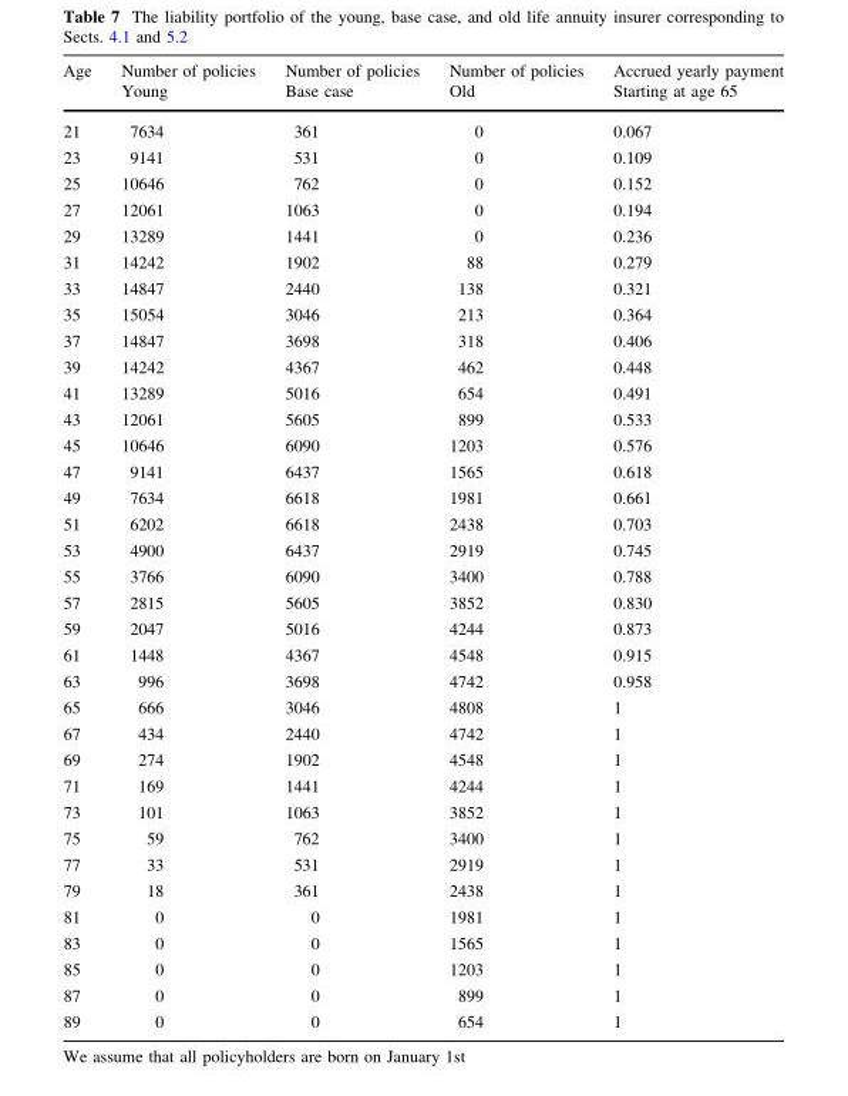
<table><thead><tr><td>Age</td><td>Number of policies Young</td><td>Number of policies Base case</td><td>Number of policies Old</td><td>Accrued yearly payment Starting at age 65</td></tr></thead><tbody><tr><td>21</td><td>7634</td><td>361</td><td>0</td><td>0.067</td></tr><tr><td>23</td><td>9141</td><td>531</td><td>0</td><td>0.109</td></tr><tr><td>25</td><td>10646</td><td>762</td><td>0</td><td>0.152</td></tr><tr><td>27</td><td>12061</td><td>1063</td><td>0</td><td>0.194</td></tr><tr><td>29</td><td>13289</td><td>1441</td><td>0</td><td>0.236</td></tr><tr><td>31</td><td>14242</td><td>1902</td><td>88</td><td>0.279</td></tr><tr><td>33</td><td>14847</td><td>2440</td><td>138</td><td>0.321</td></tr><tr><td>35</td><td>15054</td><td>3046</td><td>213</td><td>0.364</td></tr><tr><td>37</td><td>14847</td><td>3698</td><td>318</td><td>0.406</td></tr><tr><td>39</td><td>14242</td><td>4367</td><td>462</td><td>0.448</td></tr><tr><td>41</td><td>13289</td><td>5016</td><td>654</td><td>0.491</td></tr><tr><td>43</td><td>12061</td><td>5605</td><td>899</td><td>0.533</td></tr><tr><td>45</td><td>10646</td><td>6090</td><td>1203</td><td>0.576</td></tr><tr><td>47</td><td>9141</td><td>6437</td><td>1565</td><td>0.618</td></tr><tr><td>49</td><td>7634</td><td>6618</td><td>1981</td><td>0.661</td></tr><tr><td>51</td><td>6202</td><td>6618</td><td>2438</td><td>0.703</td></tr><tr><td>53</td><td>4900</td><td>6437</td><td>2919</td><td>0.745</td></tr><tr><td>55</td><td>3766</td><td>6090</td><td>3400</td><td>0.788</td></tr><tr><td>57</td><td>2815</td><td>5605</td><td>3852</td><td>0.830</td></tr><tr><td>59</td><td>2047</td><td>5016</td><td>4244</td><td>0.873</td></tr><tr><td>61</td><td>1448</td><td>4367</td><td>4548</td><td>0.915</td></tr><tr><td>63</td><td>996</td><td>3698</td><td>4742</td><td>0.958</td></tr><tr><td>65</td><td>666</td><td>3046</td><td>4808</td><td>1</td></tr><tr><td>67</td><td>434</td><td>2440</td><td>4742</td><td>1</td></tr><tr><td>69</td><td>274</td><td>1902</td><td>4548</td><td>1</td></tr><tr><td>71</td><td>169</td><td>1441</td><td>4244</td><td>1</td></tr><tr><td>73</td><td>101</td><td>1063</td><td>3852</td><td>1</td></tr><tr><td>75</td><td>59</td><td>762</td><td>3400</td><td>1</td></tr><tr><td>77</td><td>33</td><td>531</td><td>2919</td><td>1</td></tr><tr><td>79</td><td>18</td><td>361</td><td>2438</td><td>1</td></tr><tr><td>81</td><td>0</td><td>0</td><td>1981</td><td>1</td></tr><tr><td>83</td><td>0</td><td>0</td><td>1565</td><td>1</td></tr><tr><td>85</td><td>0</td><td>0</td><td>1203</td><td>1</td></tr><tr><td>87</td><td>0</td><td>0</td><td>899</td><td>1</td></tr><tr><td>89</td><td>0</td><td>0</td><td>654</td><td>1</td></tr></tbody></table>